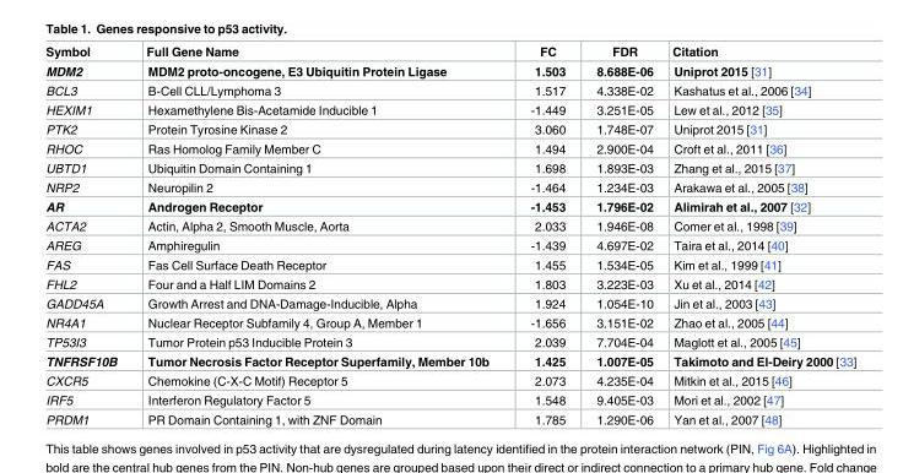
<table><thead><tr><td>Symbol</td><td>Full Gene Name</td><td>FC</td><td>FDR</td><td>Citation</td></tr></thead><tbody><tr><td>MDM2</td><td>MDM2 proto-oncogene, E3 Ubiquitin Protein Ligase</td><td>1.503</td><td>8.688E-06</td><td>Uniprot 2015 [31]</td></tr><tr><td>BCL3</td><td>B-Cell CLL/Lymphoma 3</td><td>1.517</td><td>4.338E-02</td><td>Kashatus et al., 2006 [34]</td></tr><tr><td>HEXIM1</td><td>Hexamethylene Bis-Acetamide Inducible 1</td><td>-1.449</td><td>3.251E-05</td><td>Lew et al., 2012 [35]</td></tr><tr><td>PTK2</td><td>Protein Tyrosine Kinase 2</td><td>3.060</td><td>1.748E-07</td><td>Uniprot 2015 [31]</td></tr><tr><td>RHOC</td><td>Ras Homolog Family Member C</td><td>1.494</td><td>2.900E-04</td><td>Croft et al., 2011 [36]</td></tr><tr><td>UBTD1</td><td>Ubiquitin Domain Containing 1</td><td>1.698</td><td>1.893E-03</td><td>Zhang et al., 2015 [37]</td></tr><tr><td>NRP2</td><td>Neuropilin 2</td><td>-1.464</td><td>1.234E-03</td><td>Arakawa et al., 2005 [38]</td></tr><tr><td>AR</td><td>Androgen Receptor</td><td>-1.453</td><td>1.796E-02</td><td>Alimirah et al., 2007 [32]</td></tr><tr><td>ACTA2</td><td>Actin, Alpha 2, Smooth Muscle, Aorta</td><td>2.033</td><td>1.946E-08</td><td>Comer et al., 1998 [39]</td></tr><tr><td>AREG</td><td>Amphiregulin</td><td>-1.439</td><td>4.697E-02</td><td>Taira et al., 2014 [40]</td></tr><tr><td>FAS</td><td>Fas Cell Surface Death Receptor</td><td>1.455</td><td>1.534E-05</td><td>Kim et al., 1999 [41]</td></tr><tr><td>FHL2</td><td>Four and a Half LIM Domains 2</td><td>1.803</td><td>3.223E-03</td><td>Xu et al., 2014 [42]</td></tr><tr><td>GADD45A</td><td>Growth Arrest and DNA-Damage-Inducible, Alpha</td><td>1.924</td><td>1.054E-10</td><td>Jin et al., 2003 [43]</td></tr><tr><td>NR4A1</td><td>Nuclear Receptor Subfamily 4, Group A, Member 1</td><td>-1.656</td><td>3.151E-02</td><td>Zhao et al., 2005 [44]</td></tr><tr><td>TP53I3</td><td>Tumor Protein p53 Inducible Protein 3</td><td>2.039</td><td>7.704E-04</td><td>Maglott et al., 2005 [45]</td></tr><tr><td>TNFRSF10B</td><td>Tumor Necrosis Factor Receptor Superfamily, Member 10b</td><td>1.425</td><td>1.007E-05</td><td>Takimoto and El-Deiry 2000 [33]</td></tr><tr><td>CXCR5</td><td>Chemokine (C-X-C Motif) Receptor 5</td><td>2.073</td><td>4.235E-04</td><td>Mitkin et al., 2015 [46]</td></tr><tr><td>IRF5</td><td>Interferon Regulatory Factor 5</td><td>1.548</td><td>9.405E-03</td><td>Mori et al., 2002 [47]</td></tr><tr><td>PRDM1</td><td>PR Domain Containing 1, with ZNF Domain</td><td>1.785</td><td>1.290E-06</td><td>Yan et al., 2007 [48]</td></tr></tbody></table>